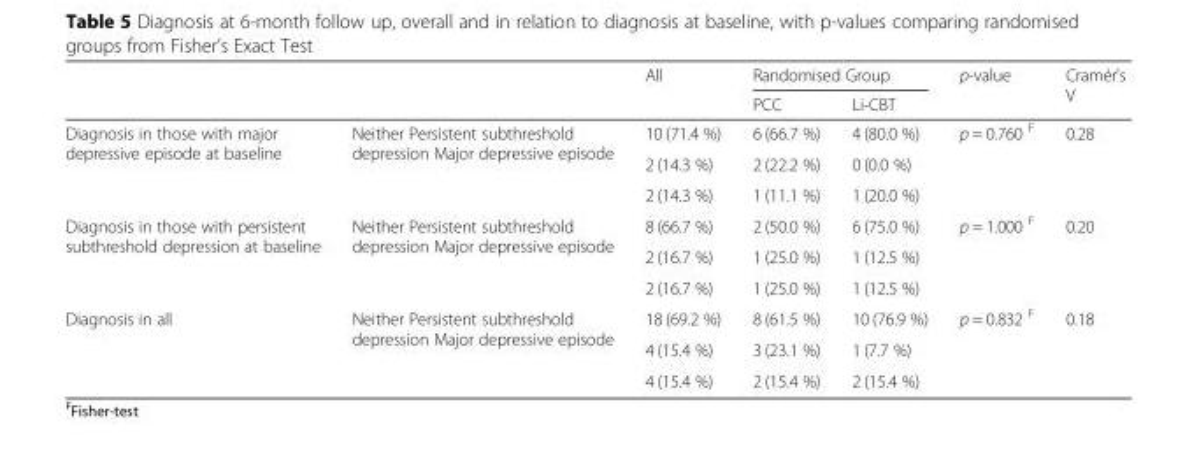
<table><thead><tr><td rowspan="2"></td><td rowspan="2"></td><td rowspan="2">All</td><td colspan="2">Randomised Group</td><td rowspan="2">p-value</td><td rowspan="2">Cramér&#x27;s V</td></tr><tr><td>PCC</td><td>Li-CBT</td></tr></thead><tbody><tr><td rowspan="3">Diagnosis in those with major depressive episode at baseline</td><td rowspan="3">Neither Persistent subthreshold depression Major depressive episode</td><td>10 (71.4 %)</td><td>6 (66.7 %)</td><td>4 (80.0 %)</td><td rowspan="3">p = 0.760 <sup>F</sup></td><td rowspan="3">0.28</td></tr><tr><td>2 (14.3 %)</td><td>2 (22.2 %)</td><td>0 (0.0 %)</td></tr><tr><td>2 (14.3 %)</td><td>1 (11.1 %)</td><td>1 (20.0 %)</td></tr><tr><td rowspan="3">Diagnosis in those with persistent subthreshold depression at baseline</td><td rowspan="3">Neither Persistent subthreshold depression Major depressive episode</td><td>8 (66.7 %)</td><td>2 (50.0 %)</td><td>6 (75.0 %)</td><td rowspan="3">p = 1.000 <sup>F</sup></td><td rowspan="3">0.20</td></tr><tr><td>2 (16.7 %)</td><td>1 (25.0 %)</td><td>1 (12.5 %)</td></tr><tr><td>2 (16.7 %)</td><td>1 (25.0 %)</td><td>1 (12.5 %)</td></tr><tr><td rowspan="3">Diagnosis in all</td><td rowspan="3">Neither Persistent subthreshold depression Major depressive episode</td><td>18 (69.2 %)</td><td>8 (61.5 %)</td><td>10 (76.9 %)</td><td rowspan="3">p = 0.832 <sup>F</sup></td><td rowspan="3">0.18</td></tr><tr><td>4 (15.4 %)</td><td>3 (23.1 %)</td><td>1 (7.7 %)</td></tr><tr><td>4 (15.4 %)</td><td>2 (15.4 %)</td><td>2 (15.4 %)</td></tr></tbody></table>